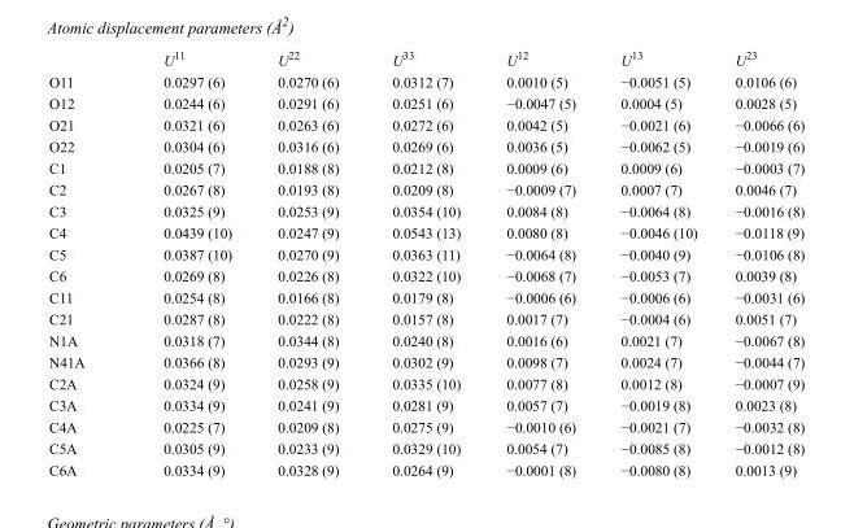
<table><thead><tr><td></td><td>U<sup>11</sup></td><td>U<sup>22</sup></td><td>U<sup>33</sup></td><td>U<sup>12</sup></td><td>U<sup>13</sup></td><td>U<sup>23</sup></td></tr></thead><tbody><tr><td>O11</td><td>0.0297 (6)</td><td>0.0270 (6)</td><td>0.0312 (7)</td><td>0.0010 (5)</td><td>−0.0051 (5)</td><td>0.0106 (6)</td></tr><tr><td>O12</td><td>0.0244 (6)</td><td>0.0291 (6)</td><td>0.0251 (6)</td><td>−0.0047 (5)</td><td>0.0004 (5)</td><td>0.0028 (5)</td></tr><tr><td>O21</td><td>0.0321 (6)</td><td>0.0263 (6)</td><td>0.0272 (6)</td><td>0.0042 (5)</td><td>−0.0021 (6)</td><td>−0.0066 (6)</td></tr><tr><td>O22</td><td>0.0304 (6)</td><td>0.0316 (6)</td><td>0.0269 (6)</td><td>0.0036 (5)</td><td>−0.0062 (5)</td><td>−0.0019 (6)</td></tr><tr><td>C1</td><td>0.0205 (7)</td><td>0.0188 (8)</td><td>0.0212 (8)</td><td>0.0009 (6)</td><td>0.0009 (6)</td><td>−0.0003 (7)</td></tr><tr><td>C2</td><td>0.0267 (8)</td><td>0.0193 (8)</td><td>0.0209 (8)</td><td>−0.0009 (7)</td><td>0.0007 (7)</td><td>0.0046 (7)</td></tr><tr><td>C3</td><td>0.0325 (9)</td><td>0.0253 (9)</td><td>0.0354 (10)</td><td>0.0084 (8)</td><td>−0.0064 (8)</td><td>−0.0016 (8)</td></tr><tr><td>C4</td><td>0.0439 (10)</td><td>0.0247 (9)</td><td>0.0543 (13)</td><td>0.0080 (8)</td><td>−0.0046 (10)</td><td>−0.0118 (9)</td></tr><tr><td>C5</td><td>0.0387 (10)</td><td>0.0270 (9)</td><td>0.0363 (11)</td><td>−0.0064 (8)</td><td>−0.0040 (9)</td><td>−0.0106 (8)</td></tr><tr><td>C6</td><td>0.0269 (8)</td><td>0.0226 (8)</td><td>0.0322 (10)</td><td>−0.0068 (7)</td><td>−0.0053 (7)</td><td>0.0039 (8)</td></tr><tr><td>C11</td><td>0.0254 (8)</td><td>0.0166 (8)</td><td>0.0179 (8)</td><td>−0.0006 (6)</td><td>−0.0006 (6)</td><td>−0.0031 (6)</td></tr><tr><td>C21</td><td>0.0287 (8)</td><td>0.0222 (8)</td><td>0.0157 (8)</td><td>0.0017 (7)</td><td>−0.0004 (6)</td><td>0.0051 (7)</td></tr><tr><td>N1A</td><td>0.0318 (7)</td><td>0.0344 (8)</td><td>0.0240 (8)</td><td>0.0016 (6)</td><td>0.0021 (7)</td><td>−0.0067 (8)</td></tr><tr><td>N41A</td><td>0.0366 (8)</td><td>0.0293 (9)</td><td>0.0302 (9)</td><td>0.0098 (7)</td><td>0.0024 (7)</td><td>−0.0044 (7)</td></tr><tr><td>C2A</td><td>0.0324 (9)</td><td>0.0258 (9)</td><td>0.0335 (10)</td><td>0.0077 (8)</td><td>0.0012 (8)</td><td>−0.0007 (9)</td></tr><tr><td>C3A</td><td>0.0334 (9)</td><td>0.0241 (9)</td><td>0.0281 (9)</td><td>0.0057 (7)</td><td>−0.0019 (8)</td><td>0.0023 (8)</td></tr><tr><td>C4A</td><td>0.0225 (7)</td><td>0.0209 (8)</td><td>0.0275 (9)</td><td>−0.0010 (6)</td><td>−0.0021 (7)</td><td>−0.0032 (8)</td></tr><tr><td>C5A</td><td>0.0305 (9)</td><td>0.0233 (9)</td><td>0.0329 (10)</td><td>0.0054 (7)</td><td>−0.0085 (8)</td><td>−0.0012 (8)</td></tr><tr><td>C6A</td><td>0.0334 (9)</td><td>0.0328 (9)</td><td>0.0264 (9)</td><td>−0.0001 (8)</td><td>−0.0080 (8)</td><td>0.0013 (9)</td></tr></tbody></table>